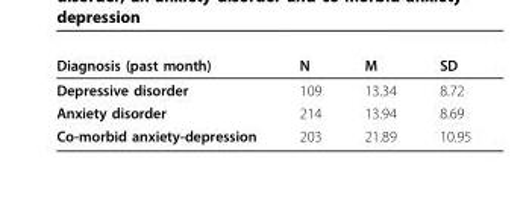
<table><thead><tr><td>Diagnosis (past month)</td><td>N</td><td>M</td><td>SD</td></tr></thead><tbody><tr><td>Depressive disorder</td><td>109</td><td>13.34</td><td>8.72</td></tr><tr><td>Anxiety disorder</td><td>214</td><td>13.94</td><td>8.69</td></tr><tr><td>Co-morbid anxiety-depression</td><td>203</td><td>21.89</td><td>10.95</td></tr></tbody></table>